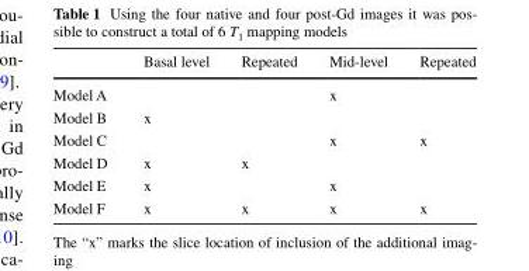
<table><thead><tr><td></td><td>Basal level</td><td>Repeated</td><td>Mid-level</td><td>Repeated</td></tr></thead><tbody><tr><td>Model A</td><td></td><td></td><td>x</td><td></td></tr><tr><td>Model B</td><td>x</td><td></td><td></td><td></td></tr><tr><td>Model C</td><td></td><td></td><td>x</td><td>x</td></tr><tr><td>Model D</td><td>x</td><td>x</td><td></td><td></td></tr><tr><td>Model E</td><td>x</td><td></td><td>x</td><td></td></tr><tr><td>Model F</td><td>x</td><td>x</td><td>x</td><td>x</td></tr></tbody></table>